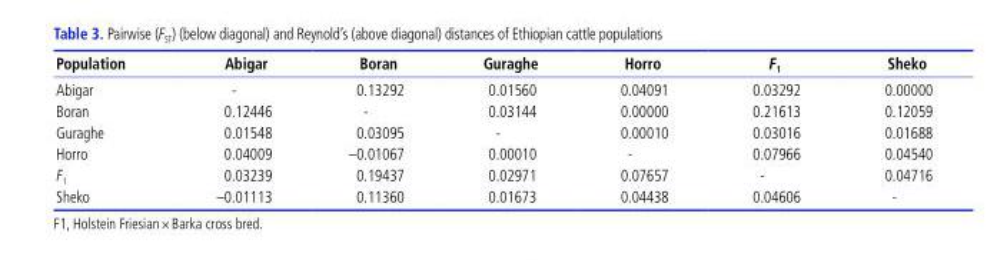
<table><thead><tr><td>Population</td><td>Abigar</td><td>Boran</td><td>Guraghe</td><td>Horro</td><td>F<sub>1</sub></td><td>Sheko</td></tr></thead><tbody><tr><td>Abigar</td><td>-</td><td>0.13292</td><td>0.01560</td><td>0.04091</td><td>0.03292</td><td>0.00000</td></tr><tr><td>Boran</td><td>0.12446</td><td>-</td><td>0.03144</td><td>0.00000</td><td>0.21613</td><td>0.12059</td></tr><tr><td>Guraghe</td><td>0.01548</td><td>0.03095</td><td>-</td><td>0.00010</td><td>0.03016</td><td>0.01688</td></tr><tr><td>Horro</td><td>0.04009</td><td>–0.01067</td><td>0.00010</td><td>-</td><td>0.07966</td><td>0.04540</td></tr><tr><td>F<sub>1</sub></td><td>0.03239</td><td>0.19437</td><td>0.02971</td><td>0.07657</td><td>-</td><td>0.04716</td></tr><tr><td>Sheko</td><td>–0.01113</td><td>0.11360</td><td>0.01673</td><td>0.04438</td><td>0.04606</td><td>-</td></tr></tbody></table>